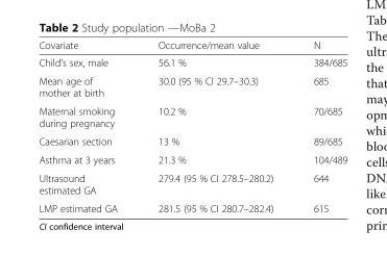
<table><thead><tr><td>Covariate</td><td>Occurrence/mean value</td><td>N</td></tr></thead><tbody><tr><td>Child’s sex, male</td><td>56.1 %</td><td>384/685</td></tr><tr><td>Mean age of mother at birth</td><td>30.0 (95 % CI 29.7–30.3)</td><td>685</td></tr><tr><td>Maternal smoking during pregnancy</td><td>10.2 %</td><td>70/685</td></tr><tr><td>Caesarian section</td><td>13 %</td><td>89/685</td></tr><tr><td>Asthma at 3 years</td><td>21.3 %</td><td>104/489</td></tr><tr><td>Ultrasound estimated GA</td><td>279.4 (95 % CI 278.5–280.2)</td><td>644</td></tr><tr><td>LMP estimated GA</td><td>281.5 (95 % CI 280.7–282.4)</td><td>615</td></tr></tbody></table>